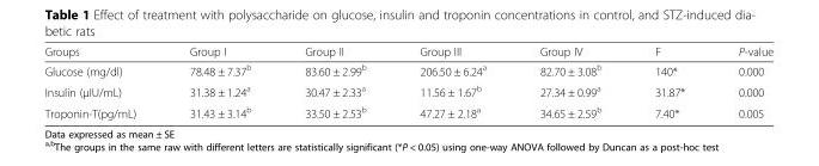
<table><thead><tr><td>Groups</td><td>Group I</td><td>Group II</td><td>Group III</td><td>Group IV</td><td>F</td><td>P-value</td></tr></thead><tbody><tr><td>Glucose (mg/dl)</td><td>78.48 ± 7.37<sup>b</sup></td><td>83.60 ± 2.99<sup>b</sup></td><td>206.50 ± 6.24<sup>a</sup></td><td>82.70 ± 3.08<sup>b</sup></td><td>140*</td><td>0.000</td></tr><tr><td>Insulin (μIU/mL)</td><td>31.38 ± 1.24<sup>a</sup></td><td>30.47 ± 2.33<sup>a</sup></td><td>11.56 ± 1.67<sup>b</sup></td><td>27.34 ± 0.99<sup>a</sup></td><td>31.87*</td><td>0.000</td></tr><tr><td>Troponin-T(pg/mL)</td><td>31.43 ± 3.14<sup>b</sup></td><td>33.50 ± 2.53<sup>b</sup></td><td>47.27 ± 2.18<sup>a</sup></td><td>34.65 ± 2.59<sup>b</sup></td><td>7.40*</td><td>0.005</td></tr></tbody></table>